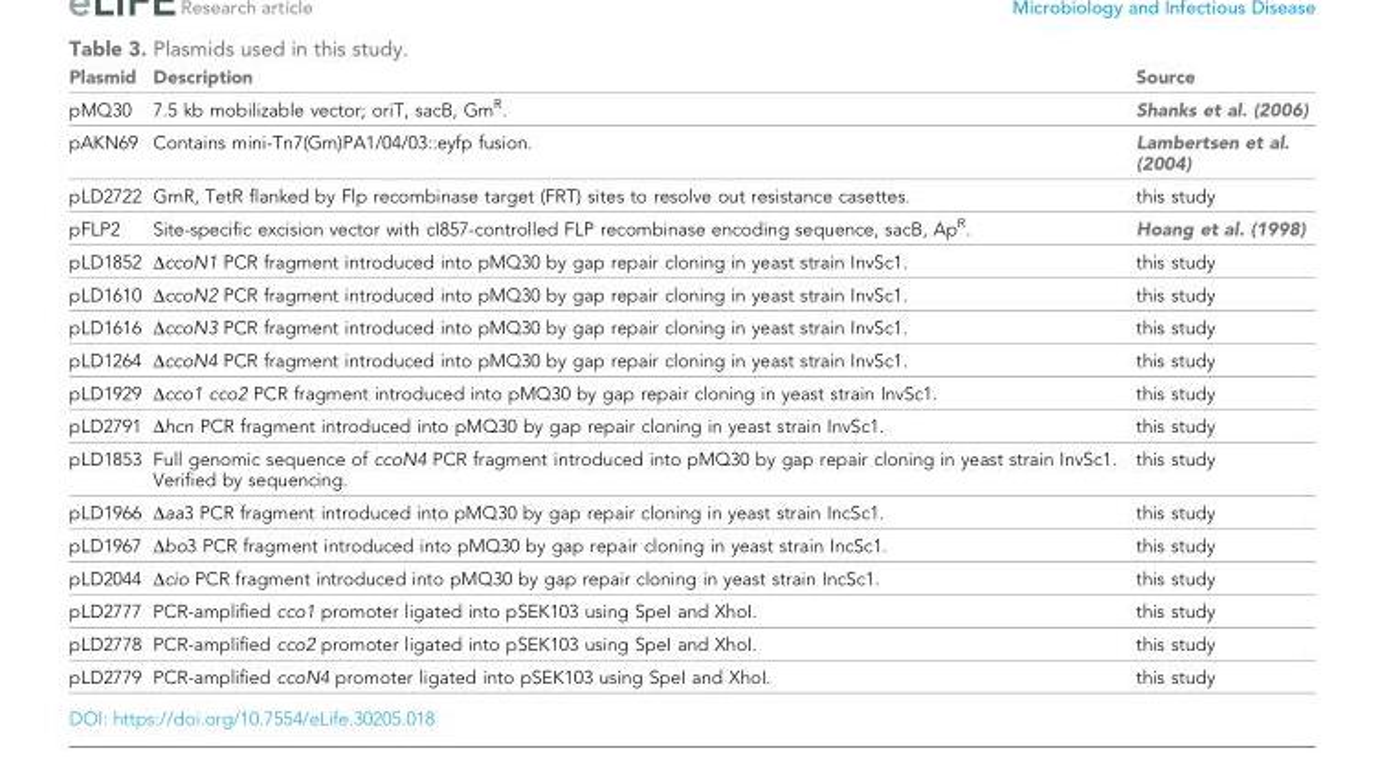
<table><thead><tr><td>Plasmid</td><td>Description</td><td>Source</td></tr></thead><tbody><tr><td>pMQ30</td><td>7.5 kb mobilizable vector; oriT, sacB, Gm<sup>R</sup>.</td><td>Shanks et al. (2006)</td></tr><tr><td>pAKN69</td><td>Contains mini-Tn7(Gm)PA1/04/03::eyfp fusion.</td><td>Lambertsen et al. (2004)</td></tr><tr><td>pLD2722</td><td>GmR, TetR flanked by Flp recombinase target (FRT) sites to resolve out resistance casettes.</td><td>this study</td></tr><tr><td>pFLP2</td><td>Site-specific excision vector with cI857-controlled FLP recombinase encoding sequence, sacB, Ap<sup>R</sup>.</td><td>Hoang et al. (1998)</td></tr><tr><td>pLD1852</td><td>∆ccoN1 PCR fragment introduced into pMQ30 by gap repair cloning in yeast strain InvSc1.</td><td>this study</td></tr><tr><td>pLD1610</td><td>∆ccoN2 PCR fragment introduced into pMQ30 by gap repair cloning in yeast strain InvSc1.</td><td>this study</td></tr><tr><td>pLD1616</td><td>∆ccoN3 PCR fragment introduced into pMQ30 by gap repair cloning in yeast strain InvSc1.</td><td>this study</td></tr><tr><td>pLD1264</td><td>∆ccoN4 PCR fragment introduced into pMQ30 by gap repair cloning in yeast strain InvSc1.</td><td>this study</td></tr><tr><td>pLD1929</td><td>∆cco1 cco2 PCR fragment introduced into pMQ30 by gap repair cloning in yeast strain InvSc1.</td><td>this study</td></tr><tr><td>pLD2791</td><td>∆hcn PCR fragment introduced into pMQ30 by gap repair cloning in yeast strain InvSc1.</td><td>this study</td></tr><tr><td>pLD1853</td><td>Full genomic sequence of ccoN4 PCR fragment introduced into pMQ30 by gap repair cloning in yeast strain InvSc1. Verified by sequencing.</td><td>this study</td></tr><tr><td>pLD1966</td><td>∆aa3 PCR fragment introduced into pMQ30 by gap repair cloning in yeast strain IncSc1.</td><td>this study</td></tr><tr><td>pLD1967</td><td>∆bo3 PCR fragment introduced into pMQ30 by gap repair cloning in yeast strain IncSc1.</td><td>this study</td></tr><tr><td>pLD2044</td><td>∆cio PCR fragment introduced into pMQ30 by gap repair cloning in yeast strain IncSc1.</td><td>this study</td></tr><tr><td>pLD2777</td><td>PCR-amplified cco1 promoter ligated into pSEK103 using SpeI and XhoI.</td><td>this study</td></tr><tr><td>pLD2778</td><td>PCR-amplified cco2 promoter ligated into pSEK103 using SpeI and XhoI.</td><td>this study</td></tr><tr><td>pLD2779</td><td>PCR-amplified ccoN4 promoter ligated into pSEK103 using SpeI and XhoI.</td><td>this study</td></tr></tbody></table>